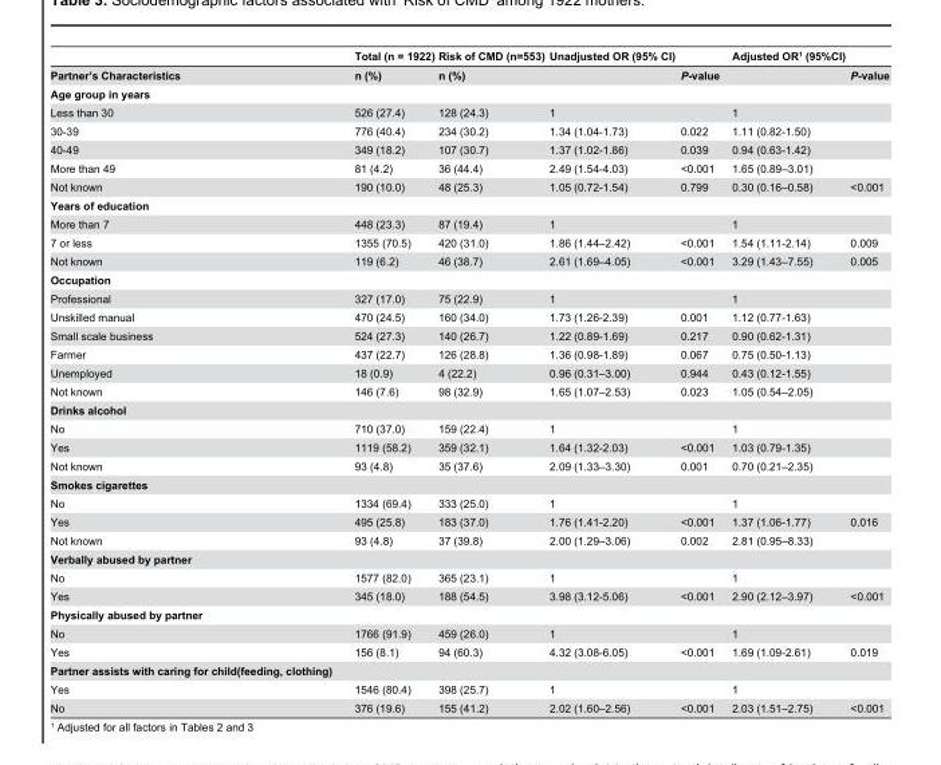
<table><thead><tr><td></td><td>Total (n = 1922)</td><td>Risk of CMD (n=553)</td><td>Unadjusted OR (95% CI)</td><td></td><td>Adjusted OR<sup>1</sup> (95%CI)</td><td></td></tr></thead><tbody><tr><td>Partner’s Characteristics</td><td>n (%)</td><td>n (%)</td><td></td><td>P-value</td><td></td><td>P-value</td></tr><tr><td colspan="7">Age group in years</td></tr><tr><td>Less than 30</td><td>526 (27.4)</td><td>128 (24.3)</td><td>1</td><td></td><td>1</td><td></td></tr><tr><td>30-39</td><td>776 (40.4)</td><td>234 (30.2)</td><td>1.34 (1.04-1.73)</td><td>0.022</td><td>1.11 (0.82-1.50)</td><td></td></tr><tr><td>40-49</td><td>349 (18.2)</td><td>107 (30.7)</td><td>1.37 (1.02-1.86)</td><td>0.039</td><td>0.94 (0.63-1.42)</td><td></td></tr><tr><td>More than 49</td><td>81 (4.2)</td><td>36 (44.4)</td><td>2.49 (1.54-4.03)</td><td>&lt;0.001</td><td>1.65 (0.89–3.01)</td><td></td></tr><tr><td>Not known</td><td>190 (10.0)</td><td>48 (25.3)</td><td>1.05 (0.72-1.54)</td><td>0.799</td><td>0.30 (0.16–0.58)</td><td>&lt;0.001</td></tr><tr><td colspan="7">Years of education</td></tr><tr><td>More than 7</td><td>448 (23.3)</td><td>87 (19.4)</td><td>1</td><td></td><td>1</td><td></td></tr><tr><td>7 or less</td><td>1355 (70.5)</td><td>420 (31.0)</td><td>1.86 (1.44–2.42)</td><td>&lt;0.001</td><td>1.54 (1.11-2.14)</td><td>0.009</td></tr><tr><td>Not known</td><td>119 (6.2)</td><td>46 (38.7)</td><td>2.61 (1.69–4.05)</td><td>&lt;0.001</td><td>3.29 (1.43–7.55)</td><td>0.005</td></tr><tr><td colspan="7">Occupation</td></tr><tr><td>Professional</td><td>327 (17.0)</td><td>75 (22.9)</td><td>1</td><td></td><td>1</td><td></td></tr><tr><td>Unskilled manual</td><td>470 (24.5)</td><td>160 (34.0)</td><td>1.73 (1.26-2.39)</td><td>0.001</td><td>1.12 (0.77-1.63)</td><td></td></tr><tr><td>Small scale business</td><td>524 (27.3)</td><td>140 (26.7)</td><td>1.22 (0.89-1.69)</td><td>0.217</td><td>0.90 (0.62-1.31)</td><td></td></tr><tr><td>Farmer</td><td>437 (22.7)</td><td>126 (28.8)</td><td>1.36 (0.98-1.89)</td><td>0.067</td><td>0.75 (0.50-1.13)</td><td></td></tr><tr><td>Unemployed</td><td>18 (0.9)</td><td>4 (22.2)</td><td>0.96 (0.31–3.00)</td><td>0.944</td><td>0.43 (0.12-1.55)</td><td></td></tr><tr><td>Not known</td><td>146 (7.6)</td><td>98 (32.9)</td><td>1.65 (1.07–2.53)</td><td>0.023</td><td>1.05 (0.54–2.05)</td><td></td></tr><tr><td colspan="7">Drinks alcohol</td></tr><tr><td>No</td><td>710 (37.0)</td><td>159 (22.4)</td><td>1</td><td></td><td>1</td><td></td></tr><tr><td>Yes</td><td>1119 (58.2)</td><td>359 (32.1)</td><td>1.64 (1.32-2.03)</td><td>&lt;0.001</td><td>1.03 (0.79-1.35)</td><td></td></tr><tr><td>Not known</td><td>93 (4.8)</td><td>35 (37.6)</td><td>2.09 (1.33–3.30)</td><td>0.001</td><td>0.70 (0.21–2.35)</td><td></td></tr><tr><td colspan="7">Smokes cigarettes</td></tr><tr><td>No</td><td>1334 (69.4)</td><td>333 (25.0)</td><td>1</td><td></td><td>1</td><td></td></tr><tr><td>Yes</td><td>495 (25.8)</td><td>183 (37.0)</td><td>1.76 (1.41-2.20)</td><td>&lt;0.001</td><td>1.37 (1.06-1.77)</td><td>0.016</td></tr><tr><td>Not known</td><td>93 (4.8)</td><td>37 (39.8)</td><td>2.00 (1.29–3.06)</td><td>0.002</td><td>2.81 (0.95–8.33)</td><td></td></tr><tr><td colspan="7">Verbally abused by partner</td></tr><tr><td>No</td><td>1577 (82.0)</td><td>365 (23.1)</td><td>1</td><td></td><td>1</td><td></td></tr><tr><td>Yes</td><td>345 (18.0)</td><td>188 (54.5)</td><td>3.98 (3.12-5.06)</td><td>&lt;0.001</td><td>2.90 (2.12–3.97)</td><td>&lt;0.001</td></tr><tr><td colspan="7">Physically abused by partner</td></tr><tr><td>No</td><td>1766 (91.9)</td><td>459 (26.0)</td><td>1</td><td></td><td>1</td><td></td></tr><tr><td>Yes</td><td>156 (8.1)</td><td>94 (60.3)</td><td>4.32 (3.08-6.05)</td><td>&lt;0.001</td><td>1.69 (1.09-2.61)</td><td>0.019</td></tr><tr><td colspan="7">Partner assists with caring for child(feeding, clothing)</td></tr><tr><td>Yes</td><td>1546 (80.4)</td><td>398 (25.7)</td><td>1</td><td></td><td>1</td><td></td></tr><tr><td>No</td><td>376 (19.6)</td><td>155 (41.2)</td><td>2.02 (1.60–2.56)</td><td>&lt;0.001</td><td>2.03 (1.51–2.75)</td><td>&lt;0.001</td></tr></tbody></table>